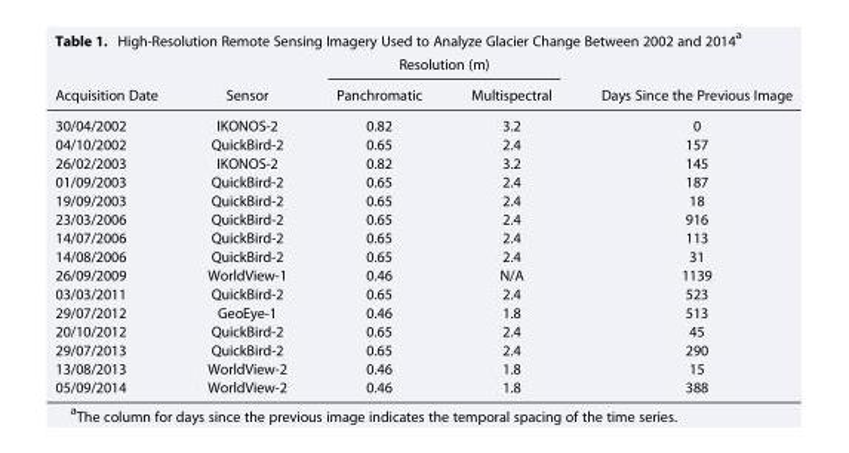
<table><thead><tr><td rowspan="2">Acquisition Date</td><td rowspan="2">Sensor</td><td colspan="2">Resolution (m)</td><td rowspan="2">Days Since the Previous Image</td></tr><tr><td>Panchromatic</td><td>Multispectral</td></tr></thead><tbody><tr><td>30/04/2002</td><td>IKONOS-2</td><td>0.82</td><td>3.2</td><td>0</td></tr><tr><td>04/10/2002</td><td>QuickBird-2</td><td>0.65</td><td>2.4</td><td>157</td></tr><tr><td>26/02/2003</td><td>IKONOS-2</td><td>0.82</td><td>3.2</td><td>145</td></tr><tr><td>01/09/2003</td><td>QuickBird-2</td><td>0.65</td><td>2.4</td><td>187</td></tr><tr><td>19/09/2003</td><td>QuickBird-2</td><td>0.65</td><td>2.4</td><td>18</td></tr><tr><td>23/03/2006</td><td>QuickBird-2</td><td>0.65</td><td>2.4</td><td>916</td></tr><tr><td>14/07/2006</td><td>QuickBird-2</td><td>0.65</td><td>2.4</td><td>113</td></tr><tr><td>14/08/2006</td><td>QuickBird-2</td><td>0.65</td><td>2.4</td><td>31</td></tr><tr><td>26/09/2009</td><td>WorldView-1</td><td>0.46</td><td>N/A</td><td>1139</td></tr><tr><td>03/03/2011</td><td>QuickBird-2</td><td>0.65</td><td>2.4</td><td>523</td></tr><tr><td>29/07/2012</td><td>GeoEye-1</td><td>0.46</td><td>1.8</td><td>513</td></tr><tr><td>20/10/2012</td><td>QuickBird-2</td><td>0.65</td><td>2.4</td><td>45</td></tr><tr><td>29/07/2013</td><td>QuickBird-2</td><td>0.65</td><td>2.4</td><td>290</td></tr><tr><td>13/08/2013</td><td>WorldView-2</td><td>0.46</td><td>1.8</td><td>15</td></tr><tr><td>05/09/2014</td><td>WorldView-2</td><td>0.46</td><td>1.8</td><td>388</td></tr></tbody></table>